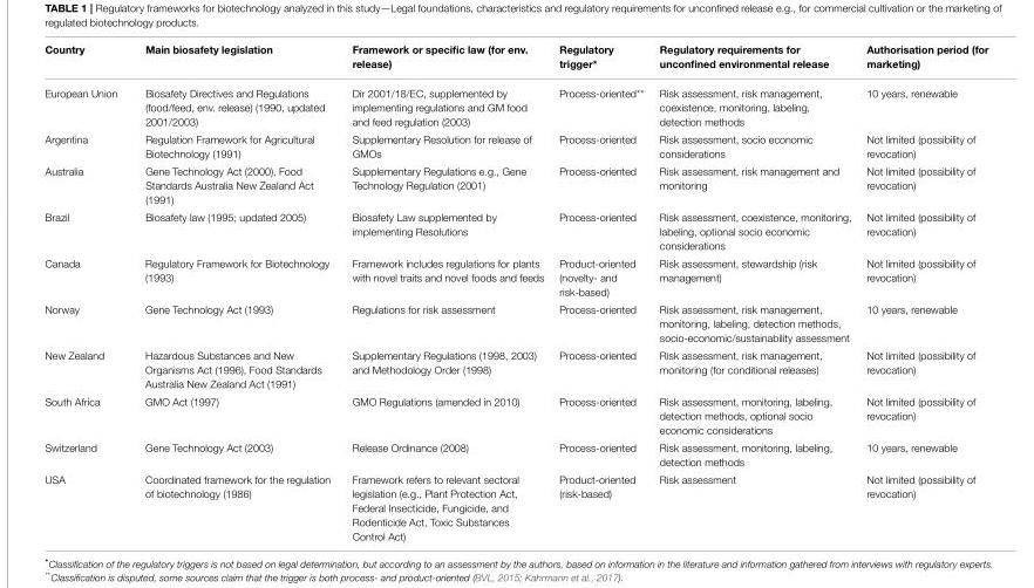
<table><thead><tr><td>Country</td><td>Main biosafety legislation</td><td>Framework or specific law (for env. release)</td><td>Regulatory trigger*</td><td>Regulatory requirements for unconfined environmental release</td><td>Authorisation period (for marketing)</td></tr></thead><tbody><tr><td>European Union</td><td>Biosafety Directives and Regulations (food/feed, env. release) (1990, updated 2001/2003)</td><td>Dir 2001/18/EC, supplemented by implementing regulations and GM food and feed regulation (2003)</td><td>Process-oriented**</td><td>Risk assessment, risk management, coexistence, monitoring, labeling, detection methods</td><td>10 years, renewable</td></tr><tr><td>Argentina</td><td>Regulation Framework for Agricultural Biotechnology (1991)</td><td>Supplementary Resolution for release of GMOs</td><td>Process-oriented</td><td>Risk assessment, socio economic considerations</td><td>Not limited (possibility of revocation)</td></tr><tr><td>Australia</td><td>Gene Technology Act (2000), Food Standards Australia New Zealand Act (1991)</td><td>Supplementary Regulations e.g., Gene Technology Regulation (2001)</td><td>Process-oriented</td><td>Risk assessment, risk management and monitoring</td><td>Not limited (possibility of revocation)</td></tr><tr><td>Brazil</td><td>Biosafety law (1995; updated 2005)</td><td>Biosafety Law supplemented by implementing Resolutions</td><td>Process-oriented</td><td>Risk assessment, coexistence, monitoring, labeling, optional socio economic considerations</td><td>Not limited (possibility of revocation)</td></tr><tr><td>Canada</td><td>Regulatory Framework for Biotechnology (1993)</td><td>Framework includes regulations for plants with novel traits and novel foods and feeds</td><td>Product-oriented (novelty- and risk-based)</td><td>Risk assessment, stewardship (risk management)</td><td>Not limited (possibility of revocation)</td></tr><tr><td>Norway</td><td>Gene Technology Act (1993)</td><td>Regulations for risk assessment</td><td>Process-oriented</td><td>Risk assessment, risk management, monitoring, labeling, detection methods, socio-economic/sustainability assessment</td><td>10 years, renewable</td></tr><tr><td>New Zealand</td><td>Hazardous Substances and New Organisms Act (1996), Food Standards Australia New Zealand Act (1991)</td><td>Supplementary Regulations (1998, 2003) and Methodology Order (1998)</td><td>Process-oriented</td><td>Risk assessment, risk management, monitoring (for conditional releases)</td><td>Not limited (possibility of revocation)</td></tr><tr><td>South Africa</td><td>GMO Act (1997)</td><td>GMO Regulations (amended in 2010)</td><td>Process-oriented</td><td>Risk assessment, monitoring, labeling, detection methods, optional socio economic considerations</td><td>Not limited (possibility of revocation)</td></tr><tr><td>Switzerland</td><td>Gene Technology Act (2003)</td><td>Release Ordinance (2008)</td><td>Process-oriented</td><td>Risk assessment, monitoring, labeling, detection methods</td><td>10 years, renewable</td></tr><tr><td>USA</td><td>Coordinated framework for the regulation of biotechnology (1986)</td><td>Framework refers to relevant sectoral legislation (e.g., Plant Protection Act, Federal Insecticide, Fungicide, and Rodenticide Act, Toxic Substances Control Act)</td><td>Product-oriented (risk-based)</td><td>Risk assessment</td><td>Not limited (possibility of revocation)</td></tr></tbody></table>